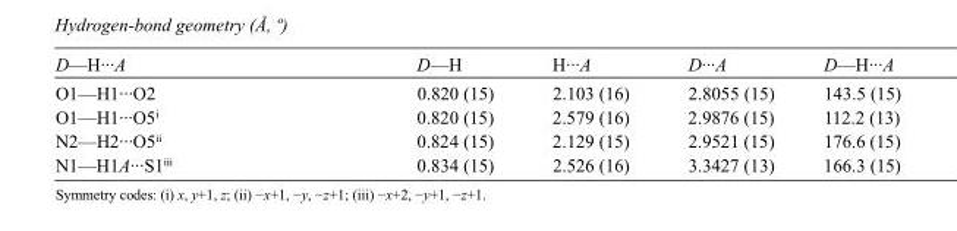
<table><tbody><tr><td>D—H···A</td><td>D—H</td><td>H···A</td><td>D···A</td><td>D—H···A</td></tr><tr><td>O1—H1···O2</td><td>0.820 (15)</td><td>2.103 (16)</td><td>2.8055 (15)</td><td>143.5 (15)</td></tr><tr><td>O1—H1···O5<sup>i</sup></td><td>0.820 (15)</td><td>2.579 (16)</td><td>2.9876 (15)</td><td>112.2 (13)</td></tr><tr><td>N2—H2···O5<sup>ii</sup></td><td>0.824 (15)</td><td>2.129 (15)</td><td>2.9521 (15)</td><td>176.6 (15)</td></tr><tr><td>N1—H1A···S1<sup>iii</sup></td><td>0.834 (15)</td><td>2.526 (16)</td><td>3.3427 (13)</td><td>166.3 (15)</td></tr></tbody></table>